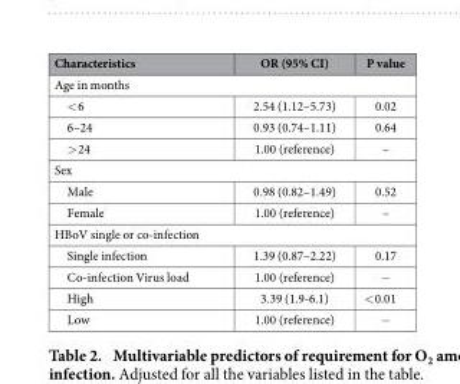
<table><thead><tr><td>Characteristics</td><td>OR (95% CI)</td><td>P value</td></tr></thead><tbody><tr><td colspan="3">Age in months</td></tr><tr><td>&lt; 6</td><td>2.54 (1.12–5.73)</td><td>0.02</td></tr><tr><td>6–24</td><td>0.93 (0.74–1.11)</td><td>0.64</td></tr><tr><td>&gt; 24</td><td>1.00 (reference)</td><td>–</td></tr><tr><td colspan="3">Sex</td></tr><tr><td>Male</td><td>0.98 (0.82–1.49)</td><td>0.52</td></tr><tr><td>Female</td><td>1.00 (reference)</td><td>–</td></tr><tr><td colspan="3">HBoV single or co-infection</td></tr><tr><td>Single infection</td><td>1.39 (0.87–2.22)</td><td>0.17</td></tr><tr><td>Co-infection Virus load</td><td>1.00 (reference)</td><td>−</td></tr><tr><td>High</td><td>3.39 (1.9-6.1)</td><td>&lt; 0.01</td></tr><tr><td>Low</td><td>1.00 (reference)</td><td>−</td></tr></tbody></table>